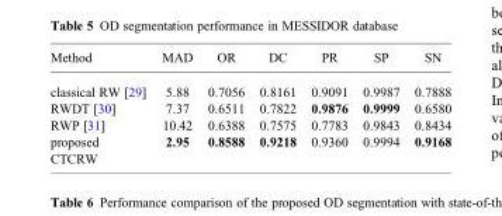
<table><thead><tr><td>Method</td><td>MAD</td><td>OR</td><td>DC</td><td>PR</td><td>SP</td><td>SN</td></tr></thead><tbody><tr><td>classical RW [29]</td><td>5.88</td><td>0.7056</td><td>0.8161</td><td>0.9091</td><td>0.9987</td><td>0.7888</td></tr><tr><td>RWDT [30]</td><td>7.37</td><td>0.6511</td><td>0.7822</td><td>0.9876</td><td>0.9999</td><td>0.6580</td></tr><tr><td>RWP [31]</td><td>10.42</td><td>0.6388</td><td>0.7575</td><td>0.7783</td><td>0.9843</td><td>0.8434</td></tr><tr><td>proposed CTCRW</td><td>2.95</td><td>0.8588</td><td>0.9218</td><td>0.9360</td><td>0.9994</td><td>0.9168</td></tr></tbody></table>